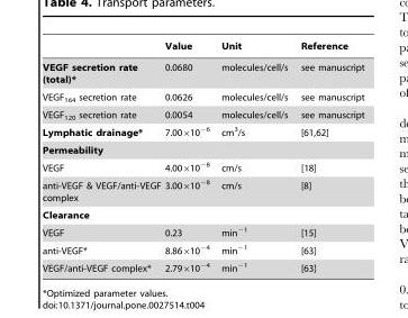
<table><thead><tr><td></td><td>Value</td><td>Unit</td><td>Reference</td></tr></thead><tbody><tr><td>VEGF secretion rate (total)*</td><td>0.0680</td><td>molecules/cell/s</td><td>see manuscript</td></tr><tr><td>VEGF<sub>164</sub> secretion rate</td><td>0.0626</td><td>molecules/cell/s</td><td>see manuscript</td></tr><tr><td>VEGF<sub>120</sub> secretion rate</td><td>0.0054</td><td>molecules/cell/s</td><td>see manuscript</td></tr><tr><td>Lymphatic drainage*</td><td>7.00×10<sup>−6</sup></td><td>cm<sup>3</sup>/s</td><td>[61,62]</td></tr><tr><td colspan="4">Permeability</td></tr><tr><td>VEGF</td><td>4.00×10<sup>−8</sup></td><td>cm/s</td><td>[18]</td></tr><tr><td>anti-VEGF &amp; VEGF/anti-VEGF complex</td><td>3.00×10<sup>−8</sup></td><td>cm/s</td><td>[8]</td></tr><tr><td colspan="4">Clearance</td></tr><tr><td>VEGF</td><td>0.23</td><td>min<sup>−1</sup></td><td>[15]</td></tr><tr><td>anti-VEGF*</td><td>8.86×10<sup>−4</sup></td><td>min<sup>−1</sup></td><td>[63]</td></tr><tr><td>VEGF/anti-VEGF complex*</td><td>2.79×10<sup>−4</sup></td><td>min<sup>−1</sup></td><td>[63]</td></tr></tbody></table>